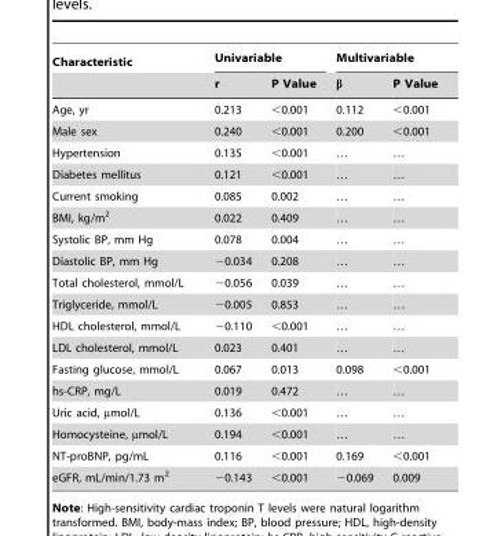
<table><thead><tr><td rowspan="2">Characteristic</td><td colspan="2">Univariable</td><td colspan="2">Multivariable</td></tr><tr><td>r</td><td>P Value</td><td>β</td><td>P Value</td></tr></thead><tbody><tr><td>Age, yr</td><td>0.213</td><td>&lt;0.001</td><td>0.112</td><td>&lt;0.001</td></tr><tr><td>Male sex</td><td>0.240</td><td>&lt;0.001</td><td>0.200</td><td>&lt;0.001</td></tr><tr><td>Hypertension</td><td>0.135</td><td>&lt;0.001</td><td>…</td><td>…</td></tr><tr><td>Diabetes mellitus</td><td>0.121</td><td>&lt;0.001</td><td>…</td><td>…</td></tr><tr><td>Current smoking</td><td>0.085</td><td>0.002</td><td>…</td><td>…</td></tr><tr><td>BMI, kg/m<sup>2</sup></td><td>0.022</td><td>0.409</td><td>…</td><td>…</td></tr><tr><td>Systolic BP, mm Hg</td><td>0.078</td><td>0.004</td><td>…</td><td>…</td></tr><tr><td>Diastolic BP, mm Hg</td><td>−0.034</td><td>0.208</td><td>…</td><td>…</td></tr><tr><td>Total cholesterol, mmol/L</td><td>−0.056</td><td>0.039</td><td>…</td><td>…</td></tr><tr><td>Triglyceride, mmol/L</td><td>−0.005</td><td>0.853</td><td>…</td><td>…</td></tr><tr><td>HDL cholesterol, mmol/L</td><td>−0.110</td><td>&lt;0.001</td><td>…</td><td>…</td></tr><tr><td>LDL cholesterol, mmol/L</td><td>0.023</td><td>0.401</td><td>…</td><td>…</td></tr><tr><td>Fasting glucose, mmol/L</td><td>0.067</td><td>0.013</td><td>0.098</td><td>&lt;0.001</td></tr><tr><td>hs-CRP, mg/L</td><td>0.019</td><td>0.472</td><td>…</td><td>…</td></tr><tr><td>Uric acid, µmol/L</td><td>0.136</td><td>&lt;0.001</td><td>…</td><td>…</td></tr><tr><td>Homocysteine, µmol/L</td><td>0.194</td><td>&lt;0.001</td><td>…</td><td>…</td></tr><tr><td>NT-proBNP, pg/mL</td><td>0.116</td><td>&lt;0.001</td><td>0.169</td><td>&lt;0.001</td></tr><tr><td>eGFR, mL/min/1.73 m<sup>2</sup></td><td>−0.143</td><td>&lt;0.001</td><td>−0.069</td><td>0.009</td></tr></tbody></table>